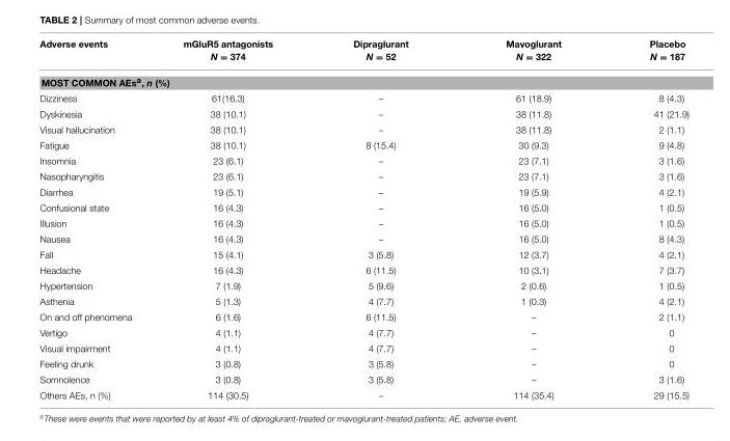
<table><thead><tr><td>Adverse events</td><td>mGluR5 antagonists N = 374</td><td>Dipraglurant N = 52</td><td>Mavoglurant N = 322</td><td>Placebo N = 187</td></tr></thead><tbody><tr><td colspan="5">MOST COMMON AEs<sup>a</sup>, n (%)</td></tr><tr><td>Dizziness</td><td>61(16.3)</td><td>–</td><td>61 (18.9)</td><td>8 (4.3)</td></tr><tr><td>Dyskinesia</td><td>38 (10.1)</td><td>–</td><td>38 (11.8)</td><td>41 (21.9)</td></tr><tr><td>Visual hallucination</td><td>38 (10.1)</td><td>–</td><td>38 (11.8)</td><td>2 (1.1)</td></tr><tr><td>Fatigue</td><td>38 (10.1)</td><td>8 (15.4)</td><td>30 (9.3)</td><td>9 (4.8)</td></tr><tr><td>Insomnia</td><td>23 (6.1)</td><td>–</td><td>23 (7.1)</td><td>3 (1.6)</td></tr><tr><td>Nasopharyngitis</td><td>23 (6.1)</td><td>–</td><td>23 (7.1)</td><td>3 (1.6)</td></tr><tr><td>Diarrhea</td><td>19 (5.1)</td><td>–</td><td>19 (5.9)</td><td>4 (2.1)</td></tr><tr><td>Confusional state</td><td>16 (4.3)</td><td>–</td><td>16 (5.0)</td><td>1 (0.5)</td></tr><tr><td>Illusion</td><td>16 (4.3)</td><td>–</td><td>16 (5.0)</td><td>1 (0.5)</td></tr><tr><td>Nausea</td><td>16 (4.3)</td><td>–</td><td>16 (5.0)</td><td>8 (4.3)</td></tr><tr><td>Fall</td><td>15 (4.1)</td><td>3 (5.8)</td><td>12 (3.7)</td><td>4 (2.1)</td></tr><tr><td>Headache</td><td>16 (4.3)</td><td>6 (11.5)</td><td>10 (3.1)</td><td>7 (3.7)</td></tr><tr><td>Hypertension</td><td>7 (1.9)</td><td>5 (9.6)</td><td>2 (0.6)</td><td>1 (0.5)</td></tr><tr><td>Asthenia</td><td>5 (1.3)</td><td>4 (7.7)</td><td>1 (0.3)</td><td>4 (2.1)</td></tr><tr><td>On and off phenomena</td><td>6 (1.6)</td><td>6 (11.5)</td><td>–</td><td>2 (1.1)</td></tr><tr><td>Vertigo</td><td>4 (1.1)</td><td>4 (7.7)</td><td>–</td><td>0</td></tr><tr><td>Visual impairment</td><td>4 (1.1)</td><td>4 (7.7)</td><td>–</td><td>0</td></tr><tr><td>Feeling drunk</td><td>3 (0.8)</td><td>3 (5.8)</td><td>–</td><td>0</td></tr><tr><td>Somnolence</td><td>3 (0.8)</td><td>3 (5.8)</td><td>–</td><td>3 (1.6)</td></tr><tr><td>Others AEs, n (%)</td><td>114 (30.5)</td><td>–</td><td>114 (35.4)</td><td>29 (15.5)</td></tr></tbody></table>